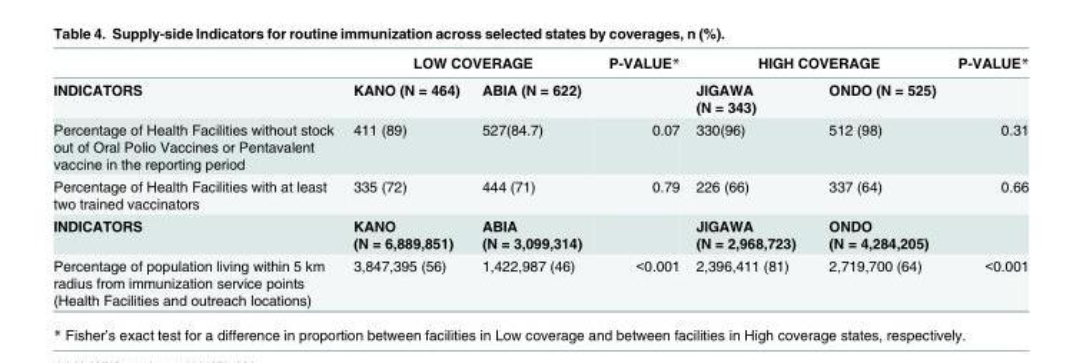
<table><thead><tr><td rowspan="2">INDICATORS</td><td colspan="2">LOW COVERAGE</td><td rowspan="2">P-VALUE*</td><td colspan="2">HIGH COVERAGE</td><td rowspan="2">P-VALUE*</td></tr><tr><td>KANO (N = 464)</td><td>ABIA (N = 622)</td><td>JIGAWA (N = 343)</td><td>ONDO (N = 525)</td></tr></thead><tbody><tr><td>Percentage of Health Facilities without stock out of Oral Polio Vaccines or Pentavalent vaccine in the reporting period</td><td>411 (89)</td><td>527(84.7)</td><td>0.07</td><td>330(96)</td><td>512 (98)</td><td>0.31</td></tr><tr><td>Percentage of Health Facilities with at least two trained vaccinators</td><td>335 (72)</td><td>444 (71)</td><td>0.79</td><td>226 (66)</td><td>337 (64)</td><td>0.66</td></tr><tr><td>INDICATORS</td><td>KANO (N = 6,889,851)</td><td>ABIA (N = 3,099,314)</td><td></td><td>JIGAWA (N = 2,968,723)</td><td>ONDO (N = 4,284,205)</td><td></td></tr><tr><td>Percentage of population living within 5 km radius from immunization service points (Health Facilities and outreach locations)</td><td>3,847,395 (56)</td><td>1,422,987 (46)</td><td>&lt;0.001</td><td>2,396,411 (81)</td><td>2,719,700 (64)</td><td>&lt;0.001</td></tr></tbody></table>